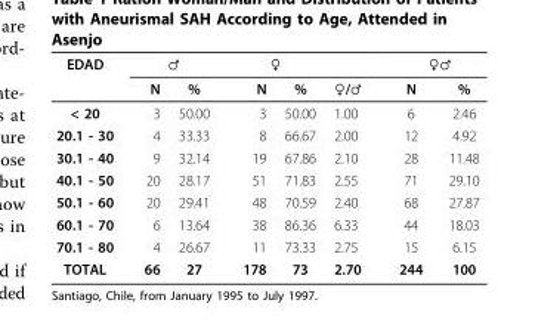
<table><thead><tr><td rowspan="2">EDAD</td><td colspan="2">♂</td><td colspan="2">♀</td><td rowspan="2">♀/♂</td><td colspan="2">♀♂</td></tr><tr><td>N</td><td>%</td><td>N</td><td>%</td><td>N</td><td>%</td></tr></thead><tbody><tr><td>&lt; 20</td><td>3</td><td>50.00</td><td>3</td><td>50.00</td><td>1.00</td><td>6</td><td>2.46</td></tr><tr><td>20.1 - 30</td><td>4</td><td>33.33</td><td>8</td><td>66.67</td><td>2.00</td><td>12</td><td>4.92</td></tr><tr><td>30.1 - 40</td><td>9</td><td>32.14</td><td>19</td><td>67.86</td><td>2.10</td><td>28</td><td>11.48</td></tr><tr><td>40.1 - 50</td><td>20</td><td>28.17</td><td>51</td><td>71.83</td><td>2.55</td><td>71</td><td>29.10</td></tr><tr><td>50.1 - 60</td><td>20</td><td>29.41</td><td>48</td><td>70.59</td><td>2.40</td><td>68</td><td>27.87</td></tr><tr><td>60.1 - 70</td><td>6</td><td>13.64</td><td>38</td><td>86.36</td><td>6.33</td><td>44</td><td>18.03</td></tr><tr><td>70.1 - 80</td><td>4</td><td>26.67</td><td>11</td><td>73.33</td><td>2.75</td><td>15</td><td>6.15</td></tr><tr><td>TOTAL</td><td>66</td><td>27</td><td>178</td><td>73</td><td>2.70</td><td>244</td><td>100</td></tr></tbody></table>